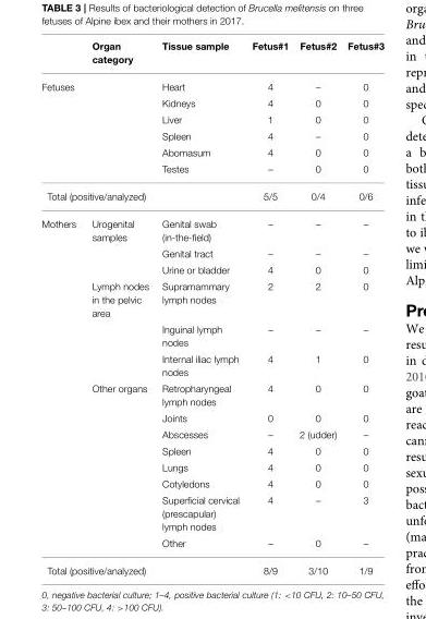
<table><thead><tr><td></td><td>Organ category</td><td>Tissue sample</td><td>Fetus#1</td><td>Fetus#2</td><td>Fetus#3</td></tr></thead><tbody><tr><td rowspan="6">Fetuses</td><td></td><td>Heart</td><td>4</td><td>–</td><td>0</td></tr><tr><td></td><td>Kidneys</td><td>4</td><td>0</td><td>0</td></tr><tr><td></td><td>Liver</td><td>1</td><td>0</td><td>0</td></tr><tr><td></td><td>Spleen</td><td>4</td><td>–</td><td>0</td></tr><tr><td></td><td>Abomasum</td><td>4</td><td>0</td><td>0</td></tr><tr><td></td><td>Testes</td><td>–</td><td>0</td><td>0</td></tr><tr><td colspan="2">Total (positive/analyzed)</td><td></td><td>5/5</td><td>0/4</td><td>0/6</td></tr><tr><td rowspan="14">Mothers</td><td>Urogenital samples</td><td>Genital swab (in-the-field)</td><td>–</td><td>–</td><td>–</td></tr><tr><td></td><td>Genital tract</td><td>–</td><td>–</td><td>–</td></tr><tr><td></td><td>Urine or bladder</td><td>4</td><td>0</td><td>0</td></tr><tr><td>Lymph nodes in the pelvic area</td><td>Supramammary lymph nodes</td><td>2</td><td>2</td><td>0</td></tr><tr><td></td><td>Inguinal lymph nodes</td><td>–</td><td>–</td><td>–</td></tr><tr><td></td><td>Internal iliac lymph nodes</td><td>4</td><td>1</td><td>0</td></tr><tr><td>Other organs</td><td>Retropharyngeal lymph nodes</td><td>4</td><td>0</td><td>0</td></tr><tr><td></td><td>Joints</td><td>0</td><td>0</td><td>0</td></tr><tr><td></td><td>Abscesses</td><td>–</td><td>2 (udder)</td><td>–</td></tr><tr><td></td><td>Spleen</td><td>4</td><td>0</td><td>0</td></tr><tr><td></td><td>Lungs</td><td>4</td><td>0</td><td>0</td></tr><tr><td></td><td>Cotyledons</td><td>4</td><td>0</td><td>0</td></tr><tr><td></td><td>Superficial cervical (prescapular) lymph nodes</td><td>4</td><td>–</td><td>3</td></tr><tr><td></td><td>Other</td><td>–</td><td>0</td><td>–</td></tr><tr><td colspan="2">Total (positive/analyzed)</td><td></td><td>8/9</td><td>3/10</td><td>1/9</td></tr></tbody></table>